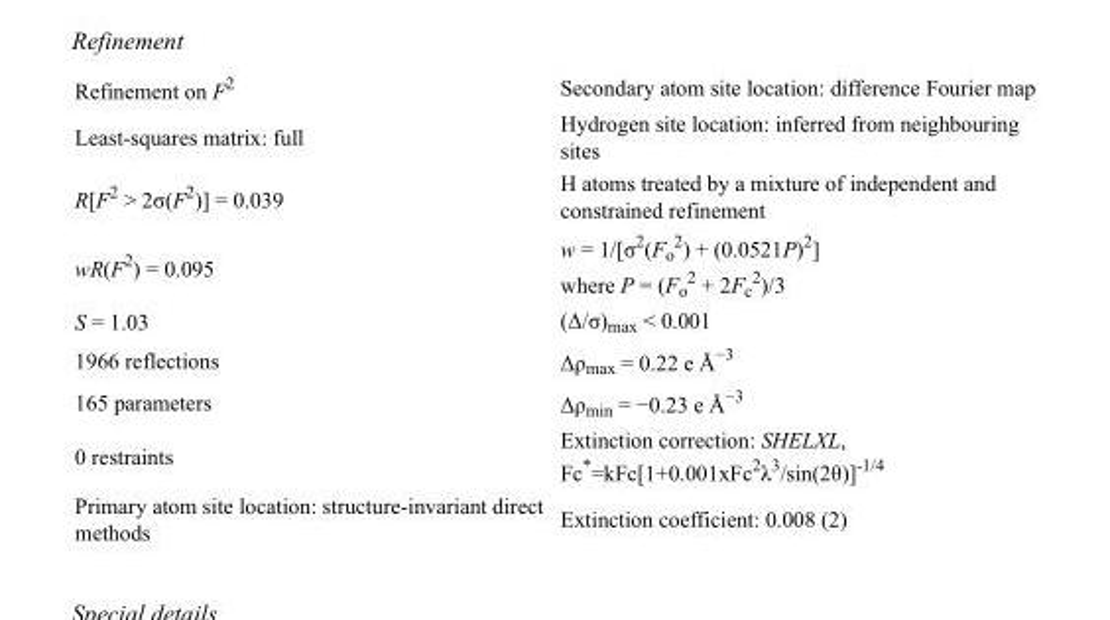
<table><tbody><tr><td>Refinement on F<sup>2</sup></td><td>Secondary atom site location: difference Fourier map</td></tr><tr><td>Least-squares matrix: full</td><td>Hydrogen site location: inferred from neighbouring sites</td></tr><tr><td>R[F<sup>2</sup> &gt; 2σ(F<sup>2</sup>)] = 0.039</td><td>H atoms treated by a mixture of independent and constrained refinement</td></tr><tr><td>wR(F<sup>2</sup>) = 0.095</td><td>w = 1/[σ<sup>2</sup>(F<sub>o</sub> <sup>2</sup>) + (0.0521P)<sup>2</sup>] where P = (F<sub>o</sub> <sup>2</sup> + 2F<sub>c</sub> <sup>2</sup>)/3</td></tr><tr><td>S = 1.03</td><td>(Δ/σ)<sub>max</sub> &lt; 0.001</td></tr><tr><td>1966 reflections</td><td>Δρ<sub>max</sub> = 0.22 e Å<sup>−3</sup></td></tr><tr><td>165 parameters</td><td>Δρ<sub>min</sub> = −0.23 e Å<sup>−3</sup></td></tr><tr><td>0 restraints</td><td>Extinction correction: SHELXL, Fc*=kFc[1+0.001xFc<sup>2</sup>λ<sup>3</sup>/sin(2θ)]<sup>-1/4</sup></td></tr><tr><td>Primary atom site location: structure-invariant direct methods</td><td>Extinction coefficient: 0.008 (2)</td></tr></tbody></table>